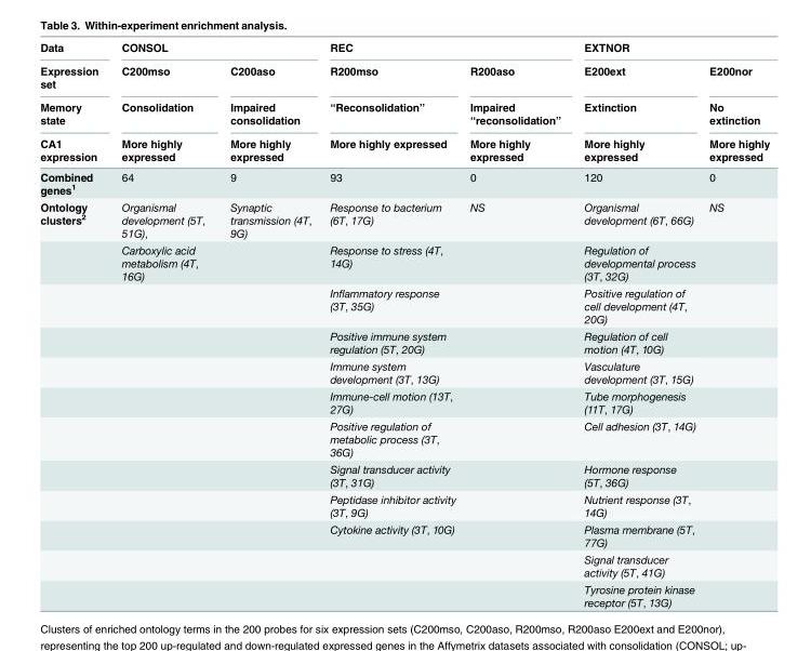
<table><thead><tr><td rowspan="3">Data Expression set Memory state</td><td colspan="2">CONSOL</td><td colspan="2">REC</td><td colspan="2">EXTNOR</td></tr><tr><td rowspan="2">C200mso Consolidation</td><td rowspan="2">C200aso Impaired consolidation</td><td rowspan="2">R200mso “Reconsolidation”</td><td rowspan="2">R200aso Impaired “reconsolidation”</td><td rowspan="2">E200ext Extinction</td><td rowspan="2">E200nor No extinction</td></tr><tr></tr></thead><tbody><tr><td>CA1 expression</td><td>More highly expressed</td><td>More highly expressed</td><td>More highly expressed</td><td>More highly expressed</td><td>More highly expressed</td><td>More highly expressed</td></tr><tr><td>Combined genes<sup>1</sup></td><td>64</td><td>9</td><td>93</td><td>0</td><td>120</td><td>0</td></tr><tr><td rowspan="12">Ontology clusters<sup>2</sup></td><td>Organismal development (5T, 51G),</td><td>Synaptic transmission (4T, 9G)</td><td>Response to bacterium (6T, 17G)</td><td>NS</td><td>Organismal development (6T, 66G)</td><td>NS</td></tr><tr><td>Carboxylic acid metabolism (4T, 16G)</td><td></td><td>Response to stress (4T, 14G)</td><td></td><td>Regulation of developmental process (3T, 32G)</td><td></td></tr><tr><td></td><td></td><td>Inflammatory response (3T, 35G)</td><td></td><td>Positive regulation of cell development (4T, 20G)</td><td></td></tr><tr><td></td><td></td><td>Positive immune system regulation (5T, 20G)</td><td></td><td>Regulation of cell motion (4T, 10G)</td><td></td></tr><tr><td></td><td></td><td>Immune system development (3T, 13G)</td><td></td><td>Vasculature development (3T, 15G)</td><td></td></tr><tr><td></td><td></td><td>Immune-cell motion (13T, 27G)</td><td></td><td>Tube morphogenesis (11T, 17G)</td><td></td></tr><tr><td></td><td></td><td>Positive regulation of metabolic process (3T, 36G)</td><td></td><td>Cell adhesion (3T, 14G)</td><td></td></tr><tr><td></td><td></td><td>Signal transducer activity (3T, 31G)</td><td></td><td>Hormone response (5T, 36G)</td><td></td></tr><tr><td></td><td></td><td>Peptidase inhibitor activity (3T, 9G)</td><td></td><td>Nutrient response (3T, 14G)</td><td></td></tr><tr><td></td><td></td><td>Cytokine activity (3T, 10G)</td><td></td><td>Plasma membrane (5T, 77G)</td><td></td></tr><tr><td></td><td></td><td></td><td></td><td>Signal transducer activity (5T, 41G)</td><td></td></tr><tr><td></td><td></td><td></td><td></td><td>Tyrosine protein kinase receptor (5T, 13G)</td><td></td></tr></tbody></table>